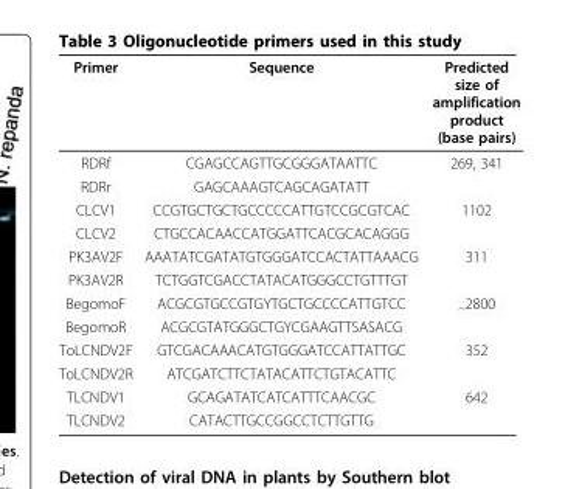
<table><thead><tr><td>Primer</td><td>Sequence</td><td>Predicted size of amplification product (base pairs)</td></tr></thead><tbody><tr><td>RDRf</td><td>CGAGCCAGTTGCGGGATAATTC</td><td>269, 341</td></tr><tr><td>RDRr</td><td>GAGCAAAGTCAGCAGATATT</td><td></td></tr><tr><td>CLCV1</td><td>CCGTGCTGCTGCCCCCATTGTCCGCGTCAC</td><td>1102</td></tr><tr><td>CLCV2</td><td>CTGCCACAACCATGGATTCACGCACAGGG</td><td></td></tr><tr><td>PK3AV2F</td><td>AAATATCGATATGTGGGATCCACTATTAAACG</td><td>311</td></tr><tr><td>PK3AV2R</td><td>TCTGGTCGACCTATACATGGGCCTGTTTGT</td><td></td></tr><tr><td>BegomoF</td><td>ACGCGTGCCGTGYTGCTGCCCCATTGTCC</td><td><sub>~</sub>2800</td></tr><tr><td>BegomoR</td><td>ACGCGTATGGGCTGYCGAAGTTSASACG</td><td></td></tr><tr><td>ToLCNDV2F</td><td>GTCGACAAACATGTGGGATCCATTATTGC</td><td>352</td></tr><tr><td>ToLCNDV2R</td><td>ATCGATCTTCTATACATTCTGTACATTC</td><td></td></tr><tr><td>TLCNDV1</td><td>GCAGATATCATCATTTCAACGC</td><td>642</td></tr><tr><td>TLCNDV2</td><td>CATACTTGCCGGCCTCTTGTTG</td><td></td></tr></tbody></table>